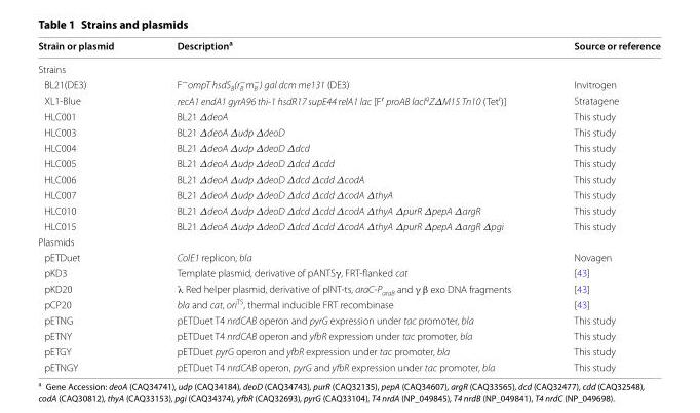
<table><thead><tr><td>Strain or plasmid</td><td>Description<sup>a</sup></td><td>Source or reference</td></tr></thead><tbody><tr><td colspan="3">Strains</td></tr><tr><td>BL21(DE3)</td><td>F<sup>−</sup>ompT hsdS<sub>B</sub>(r<sub>B</sub> <sup>−</sup>m<sub>B</sub> <sup>−</sup>) gal dcm me131 (DE3)</td><td>Invitrogen</td></tr><tr><td>XL1‑Blue</td><td>recA1 endA1 gyrA96 thi‑1 hsdR17 supE44 relA1 lac [F′ proAB lacI<sup>q</sup>ZΔM15 Tn10 (Tet<sup>r</sup>)]</td><td>Stratagene</td></tr><tr><td>HLC001</td><td>BL21 ΔdeoA</td><td>This study</td></tr><tr><td>HLC003</td><td>BL21 ΔdeoA Δudp ΔdeoD</td><td>This study</td></tr><tr><td>HLC004</td><td>BL21 ΔdeoA Δudp ΔdeoD Δdcd</td><td>This study</td></tr><tr><td>HLC005</td><td>BL21 ΔdeoA Δudp ΔdeoD Δdcd Δcdd</td><td>This study</td></tr><tr><td>HLC006</td><td>BL21 ΔdeoA Δudp ΔdeoD Δdcd Δcdd ΔcodA</td><td>This study</td></tr><tr><td>HLC007</td><td>BL21 ΔdeoA Δudp ΔdeoD Δdcd Δcdd ΔcodA ΔthyA</td><td>This study</td></tr><tr><td>HLC010</td><td>BL21 ΔdeoA Δudp ΔdeoD Δdcd Δcdd ΔcodA ΔthyA ΔpurR ΔpepA ΔargR</td><td>This study</td></tr><tr><td>HLC015</td><td>BL21 ΔdeoA Δudp ΔdeoD Δdcd Δcdd ΔcodA ΔthyA ΔpurR ΔpepA ΔargR Δpgi</td><td>This study</td></tr><tr><td colspan="3">Plasmids</td></tr><tr><td>pETDuet</td><td>ColE1 replicon, bla</td><td>Novagen</td></tr><tr><td>pKD3</td><td>Template plasmid, derivative of pANTSγ, FRT‑flanked cat</td><td>[43]</td></tr><tr><td>pKD20</td><td>λ Red helper plasmid, derivative of pINT‑ts, araC‑P<sub>araB</sub> and γ β exo DNA fragments</td><td>[43]</td></tr><tr><td>pCP20</td><td>bla and cat, ori<sup>TS</sup>, thermal inducible FRT recombinase</td><td>[43]</td></tr><tr><td>pETNG</td><td>pETDuet T4 nrdCAB operon and pyrG expression under tac promoter, bla</td><td>This study</td></tr><tr><td>pETNY</td><td>pETDuet T4 nrdCAB operon and yfbR expression under tac promoter, bla</td><td>This study</td></tr><tr><td>pETGY</td><td>pETDuet pyrG operon and yfbR expression under tac promoter, bla</td><td>This study</td></tr><tr><td>pETNGY</td><td>pETDuet T4 nrdCAB operon, pyrG and yfbR expression under tac promoter, bla</td><td>This study</td></tr></tbody></table>